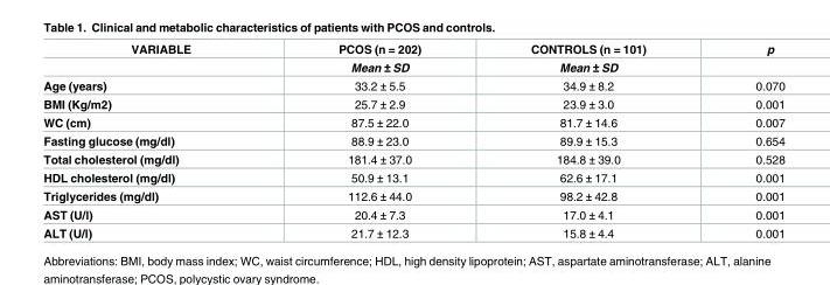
<table><thead><tr><td rowspan="2">VARIABLE</td><td rowspan="2">PCOS (n = 202) Mean ± SD</td><td rowspan="2">CONTROLS (n = 101) Mean ± SD</td><td rowspan="2">p</td></tr><tr></tr></thead><tbody><tr><td>Age (years)</td><td>33.2 ± 5.5</td><td>34.9 ± 8.2</td><td>0.070</td></tr><tr><td>BMI (Kg/m2)</td><td>25.7 ± 2.9</td><td>23.9 ± 3.0</td><td>0.001</td></tr><tr><td>WC (cm)</td><td>87.5 ± 22.0</td><td>81.7 ± 14.6</td><td>0.007</td></tr><tr><td>Fasting glucose (mg/dl)</td><td>88.9 ± 23.0</td><td>89.9 ± 15.3</td><td>0.654</td></tr><tr><td>Total cholesterol (mg/dl)</td><td>181.4 ± 37.0</td><td>184.8 ± 39.0</td><td>0.528</td></tr><tr><td>HDL cholesterol (mg/dl)</td><td>50.9 ± 13.1</td><td>62.6 ± 17.1</td><td>0.001</td></tr><tr><td>Triglycerides (mg/dl)</td><td>112.6 ± 44.0</td><td>98.2 ± 42.8</td><td>0.001</td></tr><tr><td>AST (U/l)</td><td>20.4 ± 7.3</td><td>17.0 ± 4.1</td><td>0.001</td></tr><tr><td>ALT (U/l)</td><td>21.7 ± 12.3</td><td>15.8 ± 4.4</td><td>0.001</td></tr></tbody></table>